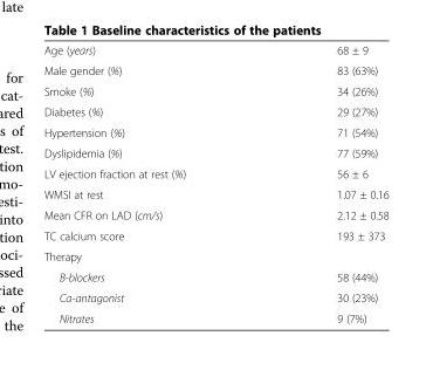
<table><tbody><tr><td>Age (years)</td><td>68 ± 9</td></tr><tr><td>Male gender (%)</td><td>83 (63%)</td></tr><tr><td>Smoke (%)</td><td>34 (26%)</td></tr><tr><td>Diabetes (%)</td><td>29 (27%)</td></tr><tr><td>Hypertension (%)</td><td>71 (54%)</td></tr><tr><td>Dyslipidemia (%)</td><td>77 (59%)</td></tr><tr><td>LV ejection fraction at rest (%)</td><td>56 ± 6</td></tr><tr><td>WMSI at rest</td><td>1.07 ± 0.16</td></tr><tr><td>Mean CFR on LAD (cm/s)</td><td>2.12 ± 0.58</td></tr><tr><td>TC calcium score</td><td>193 ± 373</td></tr><tr><td colspan="2">Therapy</td></tr><tr><td>B-blockers</td><td>58 (44%)</td></tr><tr><td>Ca-antagonist</td><td>30 (23%)</td></tr><tr><td>Nitrates</td><td>9 (7%)</td></tr></tbody></table>